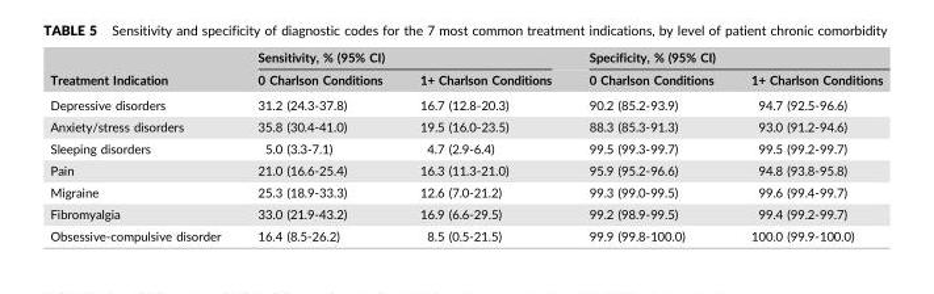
<table><thead><tr><td rowspan="2">Treatment Indication</td><td colspan="2">Sensitivity, % (95% CI)</td><td colspan="2">Specificity, % (95% CI)</td></tr><tr><td>0 Charlson Conditions</td><td>1+ Charlson Conditions</td><td>0 Charlson Conditions</td><td>1+ Charlson Conditions</td></tr></thead><tbody><tr><td>Depressive disorders</td><td>31.2 (24.3‐37.8)</td><td>16.7 (12.8‐20.3)</td><td>90.2 (85.2‐93.9)</td><td>94.7 (92.5‐96.6)</td></tr><tr><td>Anxiety/stress disorders</td><td>35.8 (30.4‐41.0)</td><td>19.5 (16.0‐23.5)</td><td>88.3 (85.3‐91.3)</td><td>93.0 (91.2‐94.6)</td></tr><tr><td>Sleeping disorders</td><td>5.0 (3.3‐7.1)</td><td>4.7 (2.9‐6.4)</td><td>99.5 (99.3‐99.7)</td><td>99.5 (99.2‐99.7)</td></tr><tr><td>Pain</td><td>21.0 (16.6‐25.4)</td><td>16.3 (11.3‐21.0)</td><td>95.9 (95.2‐96.6)</td><td>94.8 (93.8‐95.8)</td></tr><tr><td>Migraine</td><td>25.3 (18.9‐33.3)</td><td>12.6 (7.0‐21.2)</td><td>99.3 (99.0‐99.5)</td><td>99.6 (99.4‐99.7)</td></tr><tr><td>Fibromyalgia</td><td>33.0 (21.9‐43.2)</td><td>16.9 (6.6‐29.5)</td><td>99.2 (98.9‐99.5)</td><td>99.4 (99.2‐99.7)</td></tr><tr><td>Obsessive‐compulsive disorder</td><td>16.4 (8.5‐26.2)</td><td>8.5 (0.5‐21.5)</td><td>99.9 (99.8‐100.0)</td><td>100.0 (99.9‐100.0)</td></tr></tbody></table>